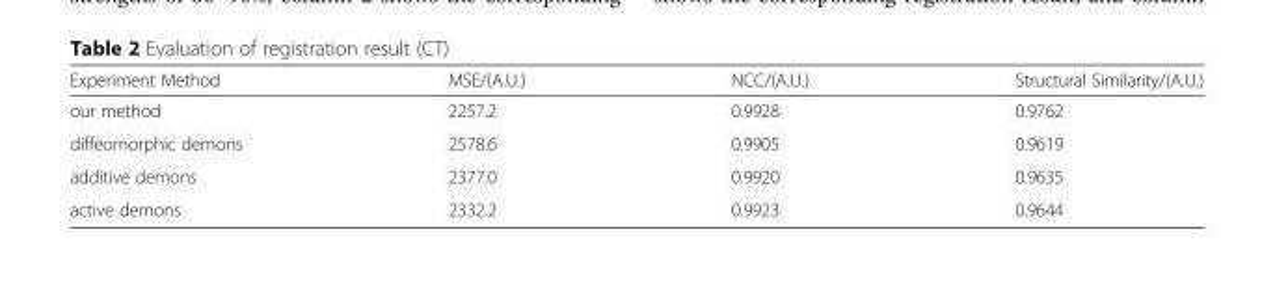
<table><thead><tr><td>Experiment Method</td><td>MSE/(A.U.)</td><td>NCC/(A.U.)</td><td>Structural Similarity/(A.U.)</td></tr></thead><tbody><tr><td>our method</td><td>2257.2</td><td>0.9928</td><td>0.9762</td></tr><tr><td>diffeomorphic demons</td><td>2578.6</td><td>0.9905</td><td>0.9619</td></tr><tr><td>additive demons</td><td>2377.0</td><td>0.9920</td><td>0.9635</td></tr><tr><td>active demons</td><td>2332.2</td><td>0.9923</td><td>0.9644</td></tr></tbody></table>